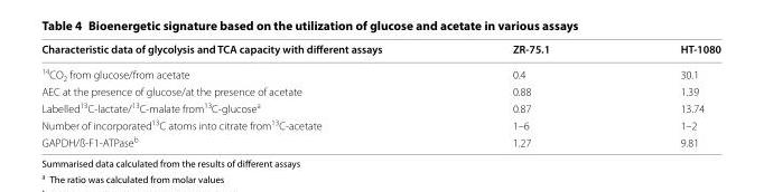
<table><thead><tr><td>Characteristic data of glycolysis and TCA capacity with different assays</td><td>ZR‑75.1</td><td>HT‑1080</td></tr></thead><tbody><tr><td><sup>14</sup>CO<sub>2</sub> from glucose/from acetate</td><td>0.4</td><td>30.1</td></tr><tr><td>AEC at the presence of glucose/at the presence of acetate</td><td>0.88</td><td>1.39</td></tr><tr><td>Labelled<sup>13</sup>C-lactate/<sup>13</sup>C-malate from<sup>13</sup>C-glucose<sup>a</sup></td><td>0.87</td><td>13.74</td></tr><tr><td>Number of incorporated<sup>13</sup>C atoms into citrate from<sup>13</sup>C-acetate</td><td>1–6</td><td>1–2</td></tr><tr><td>GAPDH/ß-F1-ATPase<sup>b</sup></td><td>1.27</td><td>9.81</td></tr></tbody></table>